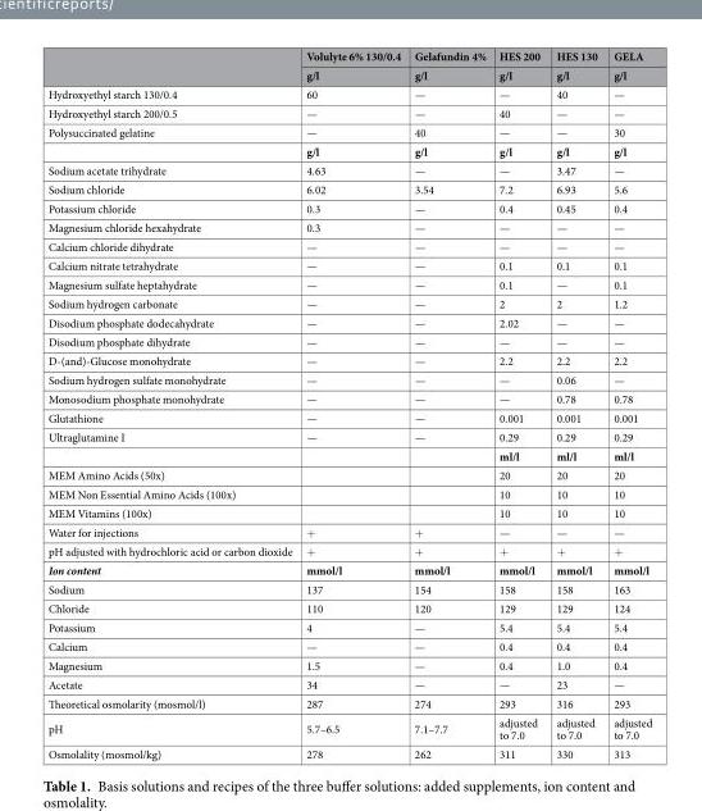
<table><thead><tr><td rowspan="2"></td><td rowspan="2">Volulyte 6% 130/0.4 g/l</td><td rowspan="2">Gelafundin 4% g/l</td><td rowspan="2">HES 200 g/l</td><td rowspan="2">HES 130 g/l</td><td rowspan="2">GELA g/l</td></tr><tr></tr></thead><tbody><tr><td>Hydroxyethyl starch 130/0.4</td><td>60</td><td>—</td><td>—</td><td>40</td><td>—</td></tr><tr><td>Hydroxyethyl starch 200/0.5</td><td>—</td><td>—</td><td>40</td><td>—</td><td>—</td></tr><tr><td rowspan="2">Polysuccinated gelatine</td><td>—</td><td>40</td><td>—</td><td>—</td><td>30</td></tr><tr><td>g/l</td><td>g/l</td><td>g/l</td><td>g/l</td><td>g/l</td></tr><tr><td>Sodium acetate trihydrate</td><td>4.63</td><td>—</td><td>—</td><td>3.47</td><td>—</td></tr><tr><td>Sodium chloride</td><td>6.02</td><td>3.54</td><td>7.2</td><td>6.93</td><td>5.6</td></tr><tr><td>Potassium chloride</td><td>0.3</td><td>—</td><td>0.4</td><td>0.45</td><td>0.4</td></tr><tr><td>Magnesium chloride hexahydrate</td><td>0.3</td><td>—</td><td>—</td><td>—</td><td>—</td></tr><tr><td>Calcium chloride dihydrate</td><td>—</td><td>—</td><td>—</td><td>—</td><td>—</td></tr><tr><td>Calcium nitrate tetrahydrate</td><td>—</td><td>—</td><td>0.1</td><td>0.1</td><td>0.1</td></tr><tr><td>Magnesium sulfate heptahydrate</td><td>—</td><td>—</td><td>0.1</td><td>—</td><td>0.1</td></tr><tr><td>Sodium hydrogen carbonate</td><td>—</td><td>—</td><td>2</td><td>2</td><td>1.2</td></tr><tr><td>Disodium phosphate dodecahydrate</td><td>—</td><td>—</td><td>2.02</td><td>—</td><td>—</td></tr><tr><td>Disodium phosphate dihydrate</td><td>—</td><td>—</td><td>—</td><td>—</td><td>—</td></tr><tr><td>D-(and)-Glucose monohydrate</td><td>—</td><td>—</td><td>2.2</td><td>2.2</td><td>2.2</td></tr><tr><td>Sodium hydrogen sulfate monohydrate</td><td>—</td><td>—</td><td>—</td><td>0.06</td><td>—</td></tr><tr><td>Monosodium phosphate monohydrate</td><td>—</td><td>—</td><td>—</td><td>0.78</td><td>0.78</td></tr><tr><td>Glutathione</td><td>—</td><td>—</td><td>0.001</td><td>0.001</td><td>0.001</td></tr><tr><td rowspan="2">Ultraglutamine I</td><td>—</td><td>—</td><td>0.29</td><td>0.29</td><td>0.29</td></tr><tr><td></td><td></td><td>ml/l</td><td>ml/l</td><td>ml/l</td></tr><tr><td>MEM Amino Acids (50x)</td><td></td><td></td><td>20</td><td>20</td><td>20</td></tr><tr><td>MEM Non Essential Amino Acids (100x)</td><td></td><td></td><td>10</td><td>10</td><td>10</td></tr><tr><td>MEM Vitamins (100x)</td><td></td><td></td><td>10</td><td>10</td><td>10</td></tr><tr><td>Water for injections</td><td>+</td><td>+</td><td>—</td><td>—</td><td>—</td></tr><tr><td>pH adjusted with hydrochloric acid or carbon dioxide</td><td>+</td><td>+</td><td>+</td><td>+</td><td>+</td></tr><tr><td>Ion content</td><td>mmol/l</td><td>mmol/l</td><td>mmol/l</td><td>mmol/l</td><td>mmol/l</td></tr><tr><td>Sodium</td><td>137</td><td>154</td><td>158</td><td>158</td><td>163</td></tr><tr><td>Chloride</td><td>110</td><td>120</td><td>129</td><td>129</td><td>124</td></tr><tr><td>Potassium</td><td>4</td><td>—</td><td>5.4</td><td>5.4</td><td>5.4</td></tr><tr><td>Calcium</td><td>—</td><td>—</td><td>0.4</td><td>0.4</td><td>0.4</td></tr><tr><td>Magnesium</td><td>1.5</td><td>—</td><td>0.4</td><td>1.0</td><td>0.4</td></tr><tr><td>Acetate</td><td>34</td><td>—</td><td>—</td><td>23</td><td>—</td></tr><tr><td>Theoretical osmolarity (mosmol/l)</td><td>287</td><td>274</td><td>293</td><td>316</td><td>293</td></tr><tr><td>pH</td><td>5.7–6.5</td><td>7.1–7.7</td><td>adjusted to 7.0</td><td>adjusted to 7.0</td><td>adjusted to 7.0</td></tr><tr><td>Osmolality (mosmol/kg)</td><td>278</td><td>262</td><td>311</td><td>330</td><td>313</td></tr></tbody></table>